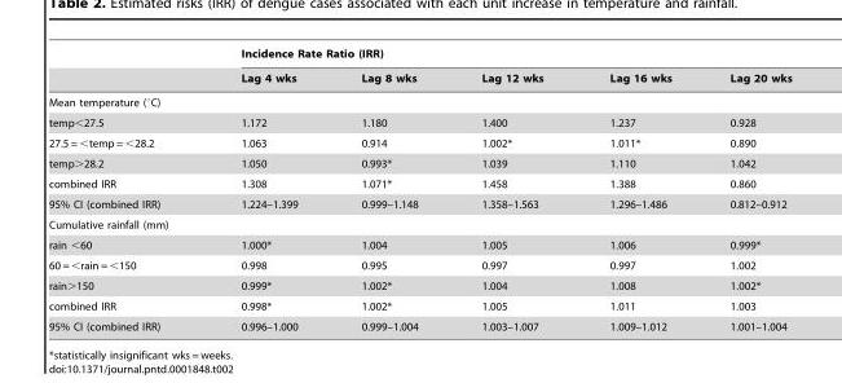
<table><thead><tr><td rowspan="2"></td><td colspan="5">Incidence Rate Ratio (IRR)</td></tr><tr><td>Lag 4 wks</td><td>Lag 8 wks</td><td>Lag 12 wks</td><td>Lag 16 wks</td><td>Lag 20 wks</td></tr></thead><tbody><tr><td colspan="6">Mean temperature (°C)</td></tr><tr><td>temp&lt;27.5</td><td>1.172</td><td>1.180</td><td>1.400</td><td>1.237</td><td>0.928</td></tr><tr><td>27.5 = &lt;temp = &lt;28.2</td><td>1.063</td><td>0.914</td><td>1.002*</td><td>1.011*</td><td>0.890</td></tr><tr><td>temp&gt;28.2</td><td>1.050</td><td>0.993*</td><td>1.039</td><td>1.110</td><td>1.042</td></tr><tr><td>combined IRR</td><td>1.308</td><td>1.071*</td><td>1.458</td><td>1.388</td><td>0.860</td></tr><tr><td>95% CI (combined IRR)</td><td>1.224–1.399</td><td>0.999–1.148</td><td>1.358–1.563</td><td>1.296–1.486</td><td>0.812–0.912</td></tr><tr><td colspan="6">Cumulative rainfall (mm)</td></tr><tr><td>rain &lt;60</td><td>1.000*</td><td>1.004</td><td>1.005</td><td>1.006</td><td>0.999*</td></tr><tr><td>60 = &lt;rain = &lt;150</td><td>0.998</td><td>0.995</td><td>0.997</td><td>0.997</td><td>1.002</td></tr><tr><td>rain&gt;150</td><td>0.999*</td><td>1.002*</td><td>1.004</td><td>1.008</td><td>1.002*</td></tr><tr><td>combined IRR</td><td>0.998*</td><td>1.002*</td><td>1.005</td><td>1.011</td><td>1.003</td></tr><tr><td>95% CI (combined IRR)</td><td>0.996–1.000</td><td>0.999–1.004</td><td>1.003–1.007</td><td>1.009–1.012</td><td>1.001–1.004</td></tr></tbody></table>